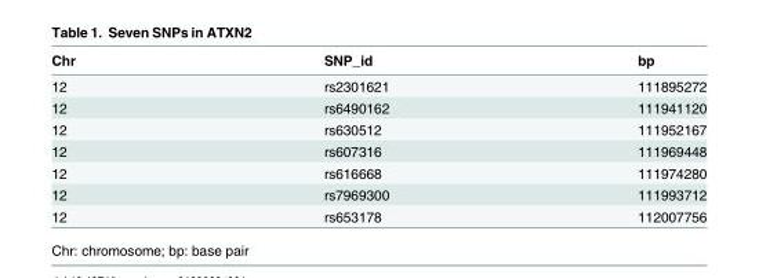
<table><thead><tr><td>Chr</td><td>SNP_id</td><td>bp</td></tr></thead><tbody><tr><td>12</td><td>rs2301621</td><td>111895272</td></tr><tr><td>12</td><td>rs6490162</td><td>111941120</td></tr><tr><td>12</td><td>rs630512</td><td>111952167</td></tr><tr><td>12</td><td>rs607316</td><td>111969448</td></tr><tr><td>12</td><td>rs616668</td><td>111974280</td></tr><tr><td>12</td><td>rs7969300</td><td>111993712</td></tr><tr><td>12</td><td>rs653178</td><td>112007756</td></tr></tbody></table>